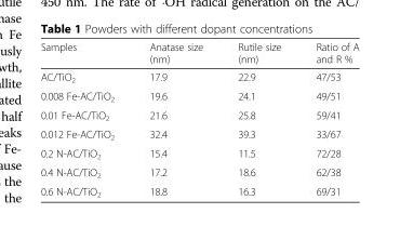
<table><thead><tr><td>Samples</td><td>Anatase size (nm)</td><td>Rutile size (nm)</td><td>Ratio of A and R %</td></tr></thead><tbody><tr><td>AC/TiO<sub>2</sub></td><td>17.9</td><td>22.9</td><td>47/53</td></tr><tr><td>0.008 Fe-AC/TiO<sub>2</sub></td><td>19.6</td><td>24.1</td><td>49/51</td></tr><tr><td>0.01 Fe-AC/TiO<sub>2</sub></td><td>21.6</td><td>25.8</td><td>59/41</td></tr><tr><td>0.012 Fe-AC/TiO<sub>2</sub></td><td>32.4</td><td>39.3</td><td>33/67</td></tr><tr><td>0.2 N-AC/TiO<sub>2</sub></td><td>15.4</td><td>11.5</td><td>72/28</td></tr><tr><td>0.4 N-AC/TiO<sub>2</sub></td><td>17.2</td><td>18.6</td><td>62/38</td></tr><tr><td>0.6 N-AC/TiO<sub>2</sub></td><td>18.8</td><td>16.3</td><td>69/31</td></tr></tbody></table>